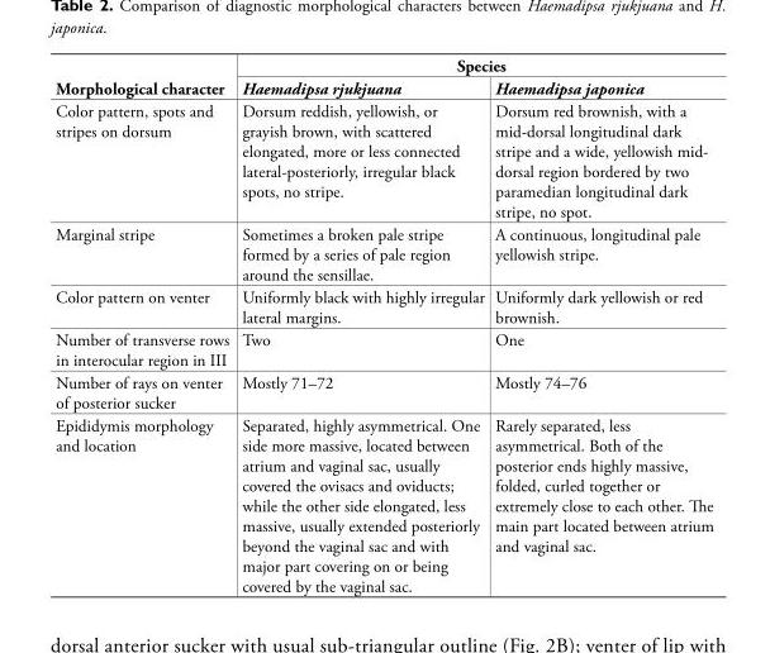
<table><thead><tr><td rowspan="2">Morphological character</td><td colspan="2">Species</td></tr><tr><td>Haemadipsa rjukjuana</td><td>Haemadipsa japonica</td></tr></thead><tbody><tr><td>Color pattern, spots and stripes on dorsum</td><td>Dorsum reddish, yellowish, or grayish brown, with scattered elongated, more or less connected lateral-posteriorly, irregular black spots, no stripe.</td><td>Dorsum red brownish, with a mid-dorsal longitudinal dark stripe and a wide, yellowish mid- dorsal region bordered by two paramedian longitudinal dark stripe, no spot.</td></tr><tr><td>Marginal stripe</td><td>Sometimes a broken pale stripe formed by a series of pale region around the sensillae.</td><td>A continuous, longitudinal pale yellowish stripe.</td></tr><tr><td>Color pattern on venter</td><td>Uniformly black with highly irregular lateral margins.</td><td>Uniformly dark yellowish or red brownish.</td></tr><tr><td>Number of transverse rows in interocular region in III</td><td>Two</td><td>One</td></tr><tr><td>Number of rays on venter of posterior sucker</td><td>Mostly 71–72</td><td>Mostly 74–76</td></tr><tr><td>Epididymis morphology and location</td><td>Separated, highly asymmetrical. One side more massive, located between atrium and vaginal sac, usually covered the ovisacs and oviducts; while the other side elongated, less massive, usually extended posteriorly beyond the vaginal sac and with major part covering on or being covered by the vaginal sac.</td><td>Rarely separated, less asymmetrical. Both of the posterior ends highly massive, folded, curled together or extremely close to each other. The main part located between atrium and vaginal sac.</td></tr></tbody></table>